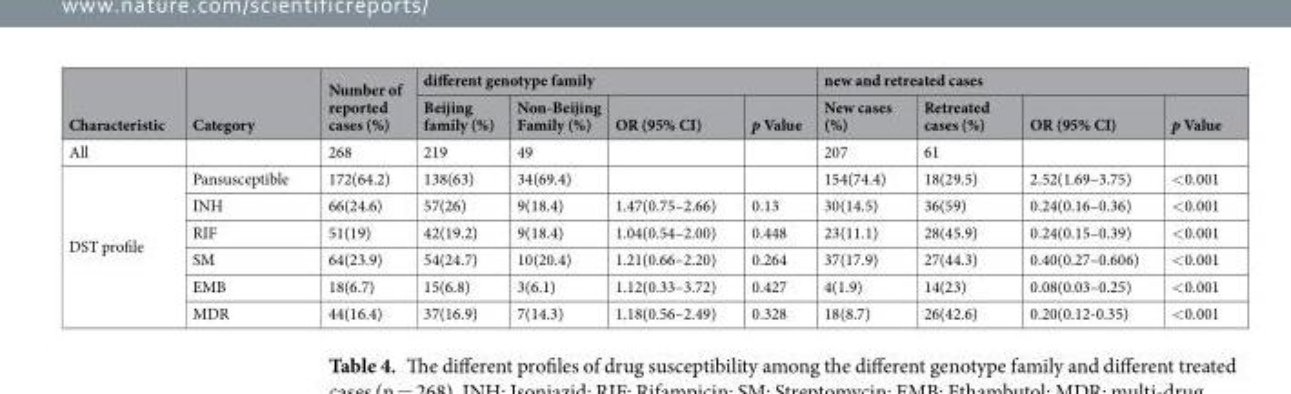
<table><thead><tr><td rowspan="2">Characteristic</td><td rowspan="2">Category</td><td rowspan="2">Number of reported cases (%)</td><td colspan="4">different genotype family</td><td colspan="4">new and retreated cases</td></tr><tr><td>Beijing family (%)</td><td>Non-Beijing Family (%)</td><td>OR (95% CI)</td><td>p Value</td><td>New cases (%)</td><td>Retreated cases (%)</td><td>OR (95% CI)</td><td>p Value</td></tr></thead><tbody><tr><td>All</td><td></td><td>268</td><td>219</td><td>49</td><td></td><td></td><td>207</td><td>61</td><td></td><td></td></tr><tr><td rowspan="6">DST profile</td><td>Pansusceptible</td><td>172(64.2)</td><td>138(63)</td><td>34(69.4)</td><td></td><td></td><td>154(74.4)</td><td>18(29.5)</td><td>2.52(1.69–3.75)</td><td>&lt;0.001</td></tr><tr><td>INH</td><td>66(24.6)</td><td>57(26)</td><td>9(18.4)</td><td>1.47(0.75–2.66)</td><td>0.13</td><td>30(14.5)</td><td>36(59)</td><td>0.24(0.16–0.36)</td><td>&lt;0.001</td></tr><tr><td>RIF</td><td>51(19)</td><td>42(19.2)</td><td>9(18.4)</td><td>1.04(0.54–2.00)</td><td>0.448</td><td>23(11.1)</td><td>28(45.9)</td><td>0.24(0.15–0.39)</td><td>&lt;0.001</td></tr><tr><td>SM</td><td>64(23.9)</td><td>54(24.7)</td><td>10(20.4)</td><td>1.21(0.66–2.20)</td><td>0.264</td><td>37(17.9)</td><td>27(44.3)</td><td>0.40(0.27–0.606)</td><td>&lt;0.001</td></tr><tr><td>EMB</td><td>18(6.7)</td><td>15(6.8)</td><td>3(6.1)</td><td>1.12(0.33–3.72)</td><td>0.427</td><td>4(1.9)</td><td>14(23)</td><td>0.08(0.03–0.25)</td><td>&lt;0.001</td></tr><tr><td>MDR</td><td>44(16.4)</td><td>37(16.9)</td><td>7(14.3)</td><td>1.18(0.56–2.49)</td><td>0.328</td><td>18(8.7)</td><td>26(42.6)</td><td>0.20(0.12-0.35)</td><td>&lt;0.001</td></tr></tbody></table>